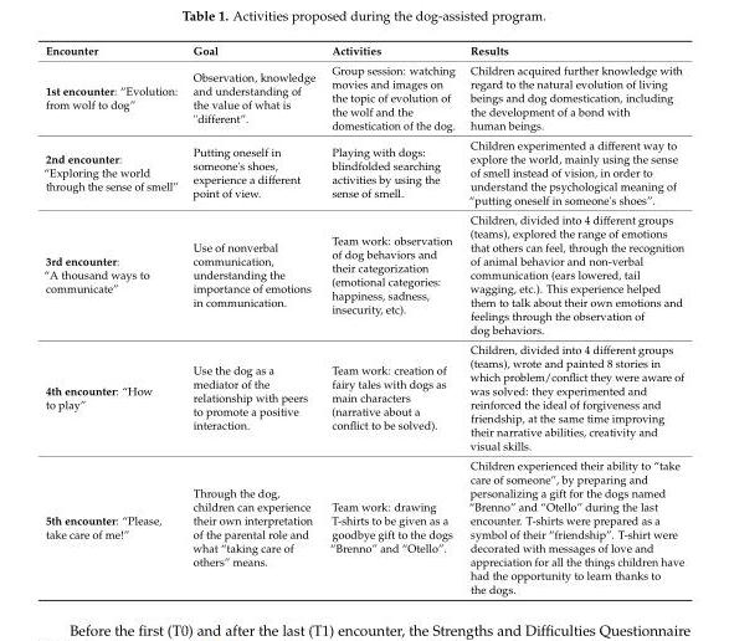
<table><thead><tr><td>Encounter</td><td>Goal</td><td>Activities</td><td>Results</td></tr></thead><tbody><tr><td>1st encounter: “Evolution: from wolf to dog”</td><td>Observation, knowledge and understanding of the value of what is &quot;different”.</td><td>Group session: watching movies and images on the topic of evolution of the wolf and the domestication of the dog.</td><td>Children acquired further knowledge with regard to the natural evolution of living beings and dog domestication, including the development of a bond with human beings.</td></tr><tr><td>2nd encounter: “Exploring the world through the sense of smell”</td><td>Putting oneself in someone&#x27;s shoes, experience a different point of view.</td><td>Playing with dogs: blindfolded searching activities by using the sense of smell.</td><td>Children experimented a different way to explore the world, mainly using the sense of smell instead of vision, in order to understand the psychological meaning of “putting oneself in someone&#x27;s shoes”.</td></tr><tr><td>3rd encounter: “A thousand ways to communicate”</td><td>Use of nonverbal communication, understanding the importance of emotions in communication.</td><td>Team work: observation of dog behaviors and their categorization (emotional categories: happiness, sadness, insecurity, etc).</td><td>Children, divided into 4 different groups (teams), explored the range of emotions that others can feel, through the recognition of animal behavior and non-verbal communication (ears lowered, tail wagging, etc.). This experience helped them to talk about their own emotions and feelings through the observation of dog behaviors.</td></tr><tr><td>4th encounter: “How to play”</td><td>Use the dog as a mediator of the relationship with peers to promote a positive interaction.</td><td>Team work: creation of fairy tales with dogs as main characters (narrative about a conflict to be solved).</td><td>Children, divided into 4 different groups (teams), wrote and painted 8 stories in which problem/conflict they were aware of was solved: they experimented and reinforced the ideal of forgiveness and friendship, at the same time improving their narrative abilities, creativity and visual skills.</td></tr><tr><td>5th encounter: “Please, take care of me!”</td><td>Through the dog, children can experience their own interpretation of the parental role and what “taking care of others” means.</td><td>Team work: drawing T-shirts to be given as a goodbye gift to the dogs “Brenno” and “Otello”.</td><td>Children experienced their ability to “take care of someone”, by preparing and personalizing a gift for the dogs named “Brenno” and “Otello” during the last encounter. T-shirts were prepared as a symbol of their “friendship”. T-shirt were decorated with messages of love and appreciation for all the things children have had the opportunity to learn thanks to the dogs.</td></tr></tbody></table>